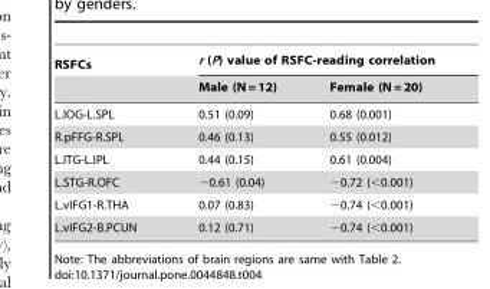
<table><thead><tr><td rowspan="2">RSFCs</td><td colspan="2">r (P) value of RSFC-reading correlation</td></tr><tr><td>Male (N = 12)</td><td>Female (N = 20)</td></tr></thead><tbody><tr><td>L.IOG-L.SPL</td><td>0.51 (0.09)</td><td>0.68 (0.001)</td></tr><tr><td>R.pFFG-R.SPL</td><td>0.46 (0.13)</td><td>0.55 (0.012)</td></tr><tr><td>L.ITG-L.IPL</td><td>0.44 (0.15)</td><td>0.61 (0.004)</td></tr><tr><td>L.STG-R.OFC</td><td>−0.61 (0.04)</td><td>−0.72 (&lt;0.001)</td></tr><tr><td>L.vIFG1-R.THA</td><td>0.07 (0.83)</td><td>−0.74 (&lt;0.001)</td></tr><tr><td>L.vIFG2-B.PCUN</td><td>0.12 (0.71)</td><td>−0.74 (&lt;0.001)</td></tr></tbody></table>